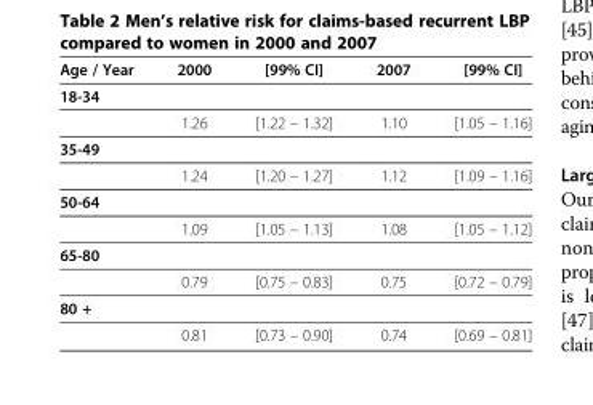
<table><thead><tr><td>Age / Year</td><td>2000</td><td>[99% CI]</td><td>2007</td><td>[99% CI]</td></tr></thead><tbody><tr><td colspan="5">18-34</td></tr><tr><td></td><td>1.26</td><td>[1.22 – 1.32]</td><td>1.10</td><td>[1.05 – 1.16]</td></tr><tr><td colspan="5">35-49</td></tr><tr><td></td><td>1.24</td><td>[1.20 – 1.27]</td><td>1.12</td><td>[1.09 – 1.16]</td></tr><tr><td colspan="5">50-64</td></tr><tr><td></td><td>1.09</td><td>[1.05 – 1.13]</td><td>1.08</td><td>[1.05 – 1.12]</td></tr><tr><td colspan="5">65-80</td></tr><tr><td></td><td>0.79</td><td>[0.75 – 0.83]</td><td>0.75</td><td>[0.72 – 0.79]</td></tr><tr><td colspan="5">80 +</td></tr><tr><td></td><td>0.81</td><td>[0.73 – 0.90]</td><td>0.74</td><td>[0.69 – 0.81]</td></tr></tbody></table>